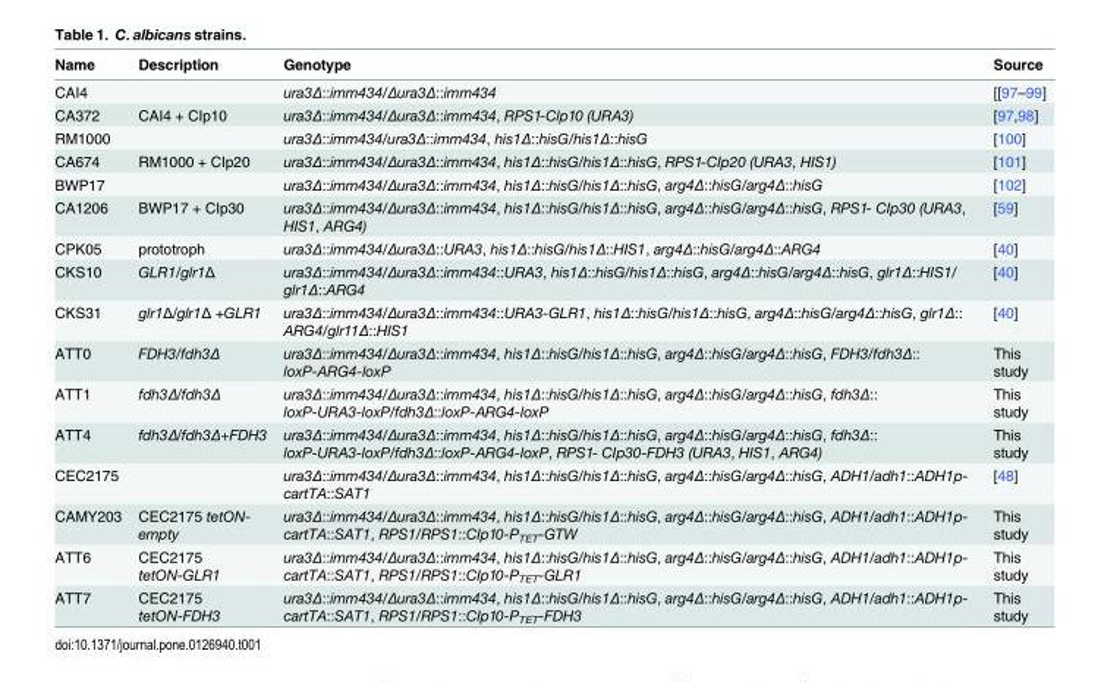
<table><thead><tr><td>Name</td><td>Description</td><td>Genotype</td><td>Source</td></tr></thead><tbody><tr><td>CAI4</td><td></td><td>ura3Δ::imm434/Δura3Δ::imm434</td><td>[[97–99]</td></tr><tr><td>CA372</td><td>CAI4 + CIp10</td><td>ura3Δ::imm434/Δura3Δ::imm434, RPS1-Clp10 (URA3)</td><td>[97,98]</td></tr><tr><td>RM1000</td><td></td><td>ura3Δ::imm434/ura3Δ::imm434, his1Δ::hisG/his1Δ::hisG</td><td>[100]</td></tr><tr><td>CA674</td><td>RM1000 + CIp20</td><td>ura3Δ::imm434/Δura3Δ::imm434, his1Δ::hisG/his1Δ::hisG, RPS1-CIp20 (URA3, HIS1)</td><td>[101]</td></tr><tr><td>BWP17</td><td></td><td>ura3Δ::imm434/Δura3Δ::imm434, his1Δ::hisG/his1Δ::hisG, arg4Δ::hisG/arg4Δ::hisG</td><td>[102]</td></tr><tr><td>CA1206</td><td>BWP17 + CIp30</td><td>ura3Δ::imm434/Δura3Δ::imm434, his1Δ::hisG/his1Δ::hisG, arg4Δ::hisG/arg4Δ::hisG, RPS1- CIp30 (URA3, HIS1, ARG4)</td><td>[59]</td></tr><tr><td>CPK05</td><td>prototroph</td><td>ura3Δ::imm434/Δura3Δ::URA3, his1Δ::hisG/his1Δ::HIS1, arg4Δ::hisG/arg4Δ::ARG4</td><td>[40]</td></tr><tr><td>CKS10</td><td>GLR1/glr1Δ</td><td>ura3Δ::imm434/Δura3Δ::imm434::URA3, his1Δ::hisG/his1Δ::hisG, arg4Δ::hisG/arg4Δ::hisG, glr1Δ::HIS1/ glr1Δ::ARG4</td><td>[40]</td></tr><tr><td>CKS31</td><td>glr1Δ/glr1Δ +GLR1</td><td>ura3Δ::imm434/Δura3Δ::imm434::URA3-GLR1, his1Δ::hisG/his1Δ::hisG, arg4Δ::hisG/arg4Δ::hisG, glr1Δ:: ARG4/glr11Δ::HIS1</td><td>[40]</td></tr><tr><td>ATT0</td><td>FDH3/fdh3Δ</td><td>ura3Δ::imm434/Δura3Δ::imm434, his1Δ::hisG/his1Δ::hisG, arg4Δ::hisG/arg4Δ::hisG, FDH3/fdh3Δ:: loxP-ARG4-loxP</td><td>This study</td></tr><tr><td>ATT1</td><td>fdh3Δ/fdh3Δ</td><td>ura3Δ::imm434/Δura3Δ::imm434, his1Δ::hisG/his1Δ::hisG, arg4Δ::hisG/arg4Δ::hisG, fdh3Δ:: loxP-URA3-loxP/fdh3Δ::loxP-ARG4-loxP</td><td>This study</td></tr><tr><td>ATT4</td><td>fdh3Δ/fdh3Δ+FDH3</td><td>ura3Δ::imm434/Δura3Δ::imm434, his1Δ::hisG/his1Δ::hisG, arg4Δ::hisG/arg4Δ::hisG, fdh3Δ:: loxP-URA3-loxP/fdh3Δ::loxP-ARG4-loxP, RPS1- CIp30-FDH3 (URA3, HIS1, ARG4)</td><td>This study</td></tr><tr><td>CEC2175</td><td></td><td>ura3Δ::imm434/Δura3Δ::imm434, his1Δ::hisG/his1Δ::hisG, arg4Δ::hisG/arg4Δ::hisG, ADH1/adh1::ADH1p- cartTA::SAT1</td><td>[48]</td></tr><tr><td>CAMY203</td><td>CEC2175 tetON- empty</td><td>ura3Δ::imm434/Δura3Δ::imm434, his1Δ::hisG/his1Δ::hisG, arg4Δ::hisG/arg4Δ::hisG, ADH1/adh1::ADH1p- cartTA::SAT1, RPS1/RPS1::CIp10-P<sub>TET</sub>-GTW</td><td>This study</td></tr><tr><td>ATT6</td><td>CEC2175 tetON-GLR1</td><td>ura3Δ::imm434/Δura3Δ::imm434, his1Δ::hisG/his1Δ::hisG, arg4Δ::hisG/arg4Δ::hisG, ADH1/adh1::ADH1p- cartTA::SAT1, RPS1/RPS1::CIp10-P<sub>TET</sub>-GLR1</td><td>This study</td></tr><tr><td>ATT7</td><td>CEC2175 tetON-FDH3</td><td>ura3Δ::imm434/Δura3Δ::imm434, his1Δ::hisG/his1Δ::hisG, arg4Δ::hisG/arg4Δ::hisG, ADH1/adh1::ADH1p- cartTA::SAT1, RPS1/RPS1::CIp10-P<sub>TET</sub>-FDH3</td><td>This study</td></tr></tbody></table>